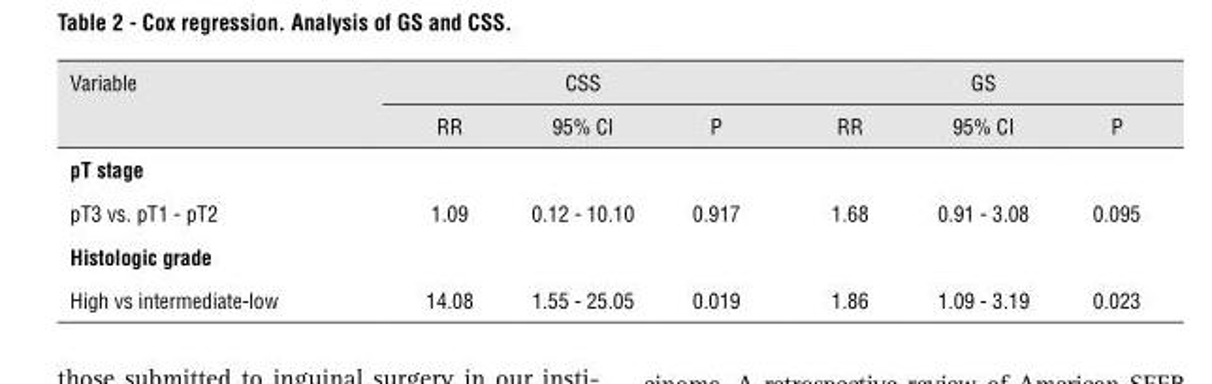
<table><thead><tr><td rowspan="2">Variable</td><td colspan="3">CSS</td><td colspan="3">GS</td></tr><tr><td>RR</td><td>95% CI</td><td>P</td><td>RR</td><td>95% CI</td><td>P</td></tr></thead><tbody><tr><td colspan="7">pT stage</td></tr><tr><td>pT3 vs. pT1 - pT2</td><td>1.09</td><td>0.12 - 10.10</td><td>0.917</td><td>1.68</td><td>0.91 - 3.08</td><td>0.095</td></tr><tr><td colspan="7">histologic grade</td></tr><tr><td>High vs intermediate-low</td><td>14.08</td><td>1.55 - 25.05</td><td>0.019</td><td>1.86</td><td>1.09 - 3.19</td><td>0.023</td></tr></tbody></table>